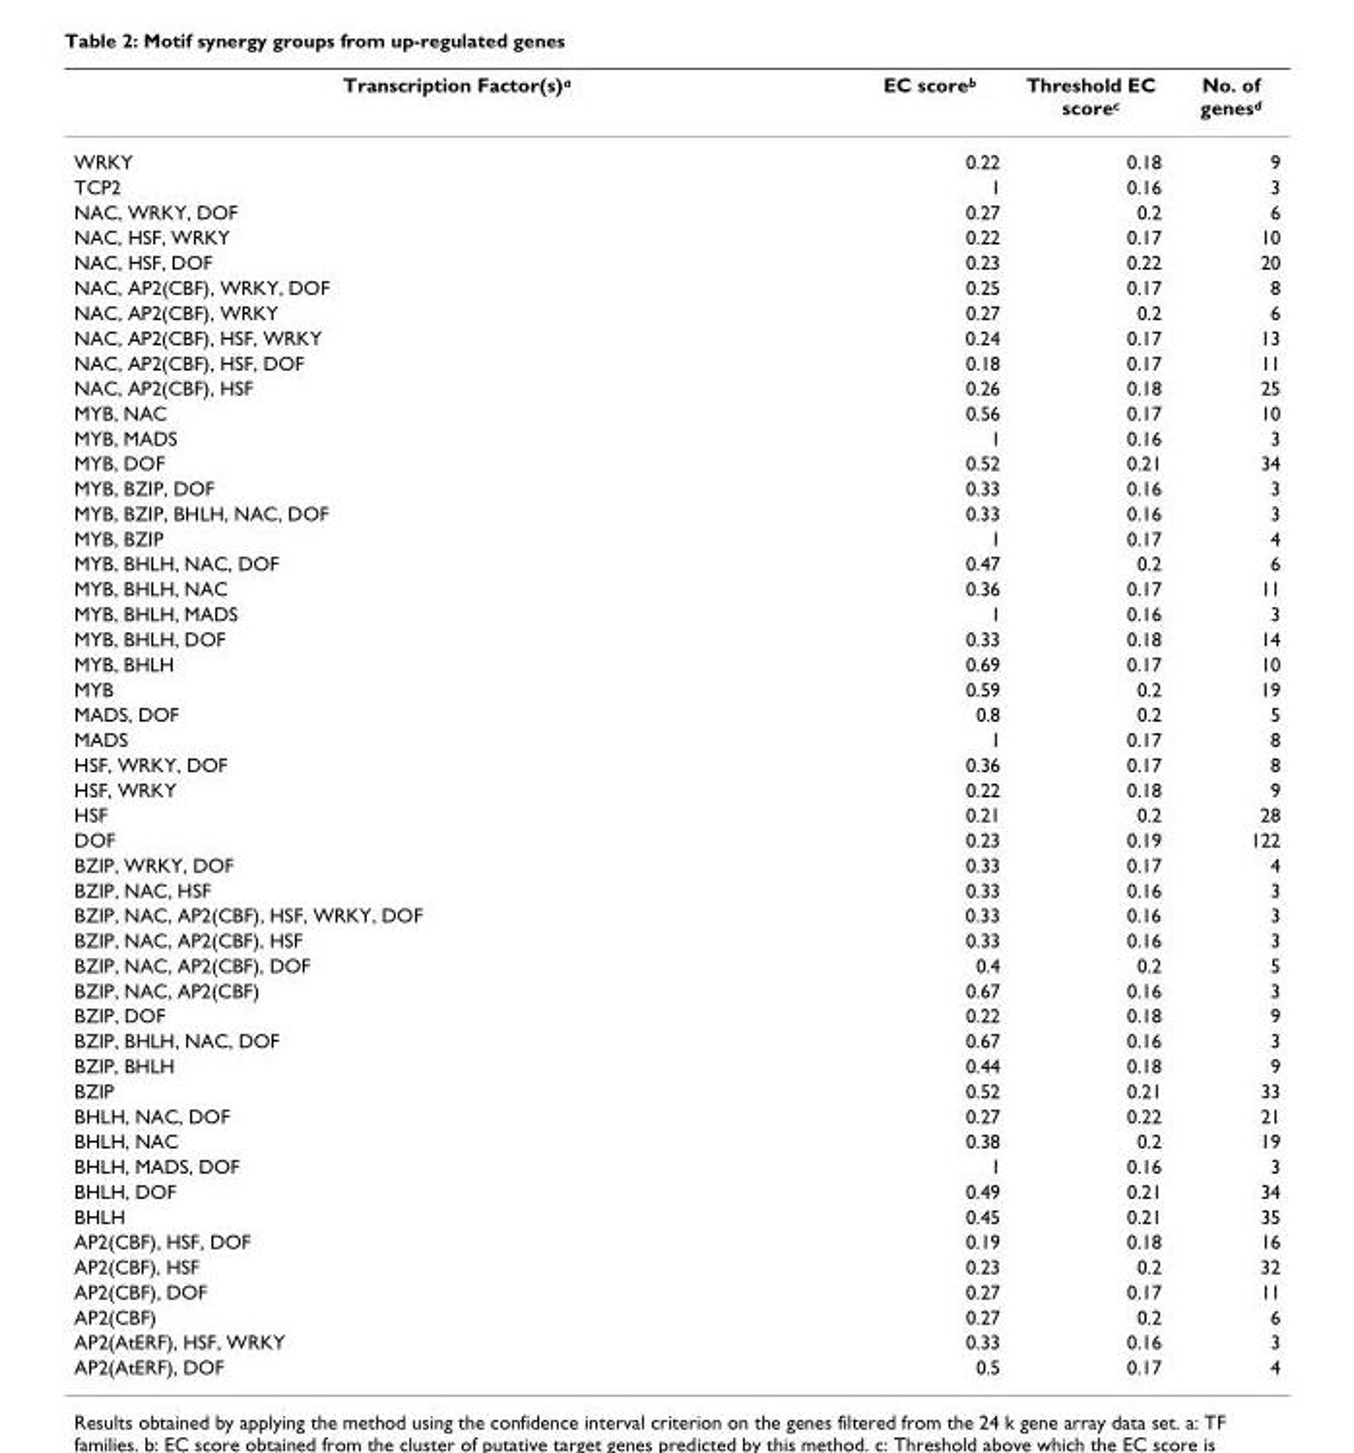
<table><thead><tr><td>Transcription Factor(s)<sup>a</sup></td><td>EC score<sup>b</sup></td><td>Threshold EC score<sup>c</sup></td><td>No. of genes<sup>d</sup></td></tr></thead><tbody><tr><td>WRKY</td><td>0.22</td><td>0.18</td><td>9</td></tr><tr><td>TCP2</td><td>1</td><td>0.16</td><td>3</td></tr><tr><td>NAC, WRKY, DOF</td><td>0.27</td><td>0.2</td><td>6</td></tr><tr><td>NAC, HSF, WRKY</td><td>0.22</td><td>0.17</td><td>10</td></tr><tr><td>NAC, HSF, DOF</td><td>0.23</td><td>0.22</td><td>20</td></tr><tr><td>NAC, AP2(CBF), WRKY, DOF</td><td>0.25</td><td>0.17</td><td>8</td></tr><tr><td>NAC, AP2(CBF), WRKY</td><td>0.27</td><td>0.2</td><td>6</td></tr><tr><td>NAC, AP2(CBF), HSF, WRKY</td><td>0.24</td><td>0.17</td><td>13</td></tr><tr><td>NAC, AP2(CBF), HSF, DOF</td><td>0.18</td><td>0.17</td><td>11</td></tr><tr><td>NAC, AP2(CBF), HSF</td><td>0.26</td><td>0.18</td><td>25</td></tr><tr><td>MYB, NAC</td><td>0.56</td><td>0.17</td><td>10</td></tr><tr><td>MYB, MADS</td><td>1</td><td>0.16</td><td>3</td></tr><tr><td>MYB, DOF</td><td>0.52</td><td>0.21</td><td>34</td></tr><tr><td>MYB, BZIP, DOF</td><td>0.33</td><td>0.16</td><td>3</td></tr><tr><td>MYB, BZIP, BHLH, NAC, DOF</td><td>0.33</td><td>0.16</td><td>3</td></tr><tr><td>MYB, BZIP</td><td>1</td><td>0.17</td><td>4</td></tr><tr><td>MYB, BHLH, NAC, DOF</td><td>0.47</td><td>0.2</td><td>6</td></tr><tr><td>MYB, BHLH, NAC</td><td>0.36</td><td>0.17</td><td>11</td></tr><tr><td>MYB, BHLH, MADS</td><td>1</td><td>0.16</td><td>3</td></tr><tr><td>MYB, BHLH, DOF</td><td>0.33</td><td>0.18</td><td>14</td></tr><tr><td>MYB, BHLH</td><td>0.69</td><td>0.17</td><td>10</td></tr><tr><td>MYB</td><td>0.59</td><td>0.2</td><td>19</td></tr><tr><td>MADS, DOF</td><td>0.8</td><td>0.2</td><td>5</td></tr><tr><td>MADS</td><td>1</td><td>0.17</td><td>8</td></tr><tr><td>HSF, WRKY, DOF</td><td>0.36</td><td>0.17</td><td>8</td></tr><tr><td>HSF, WRKY</td><td>0.22</td><td>0.18</td><td>9</td></tr><tr><td>HSF</td><td>0.21</td><td>0.2</td><td>28</td></tr><tr><td>DOF</td><td>0.23</td><td>0.19</td><td>122</td></tr><tr><td>BZIP, WRKY, DOF</td><td>0.33</td><td>0.17</td><td>4</td></tr><tr><td>BZIP, NAC, HSF</td><td>0.33</td><td>0.16</td><td>3</td></tr><tr><td>BZIP, NAC, AP2(CBF), HSF, WRKY, DOF</td><td>0.33</td><td>0.16</td><td>3</td></tr><tr><td>BZIP, NAC, AP2(CBF), HSF</td><td>0.33</td><td>0.16</td><td>3</td></tr><tr><td>BZIP, NAC, AP2(CBF), DOF</td><td>0.4</td><td>0.2</td><td>5</td></tr><tr><td>BZIP, NAC, AP2(CBF)</td><td>0.67</td><td>0.16</td><td>3</td></tr><tr><td>BZIP, DOF</td><td>0.22</td><td>0.18</td><td>9</td></tr><tr><td>BZIP, BHLH, NAC, DOF</td><td>0.67</td><td>0.16</td><td>3</td></tr><tr><td>BZIP, BHLH</td><td>0.44</td><td>0.18</td><td>9</td></tr><tr><td>BZIP</td><td>0.52</td><td>0.21</td><td>33</td></tr><tr><td>BHLH, NAC, DOF</td><td>0.27</td><td>0.22</td><td>21</td></tr><tr><td>BHLH, NAC</td><td>0.38</td><td>0.2</td><td>19</td></tr><tr><td>BHLH, MADS, DOF</td><td>1</td><td>0.16</td><td>3</td></tr><tr><td>BHLH, DOF</td><td>0.49</td><td>0.21</td><td>34</td></tr><tr><td>BHLH</td><td>0.45</td><td>0.21</td><td>35</td></tr><tr><td>AP2(CBF), HSF, DOF</td><td>0.19</td><td>0.18</td><td>16</td></tr><tr><td>AP2(CBF), HSF</td><td>0.23</td><td>0.2</td><td>32</td></tr><tr><td>AP2(CBF), DOF</td><td>0.27</td><td>0.17</td><td>11</td></tr><tr><td>AP2(CBF)</td><td>0.27</td><td>0.2</td><td>6</td></tr><tr><td>AP2(AtERF), HSF, WRKY</td><td>0.33</td><td>0.16</td><td>3</td></tr><tr><td>AP2(AtERF), DOF</td><td>0.5</td><td>0.17</td><td>4</td></tr></tbody></table>